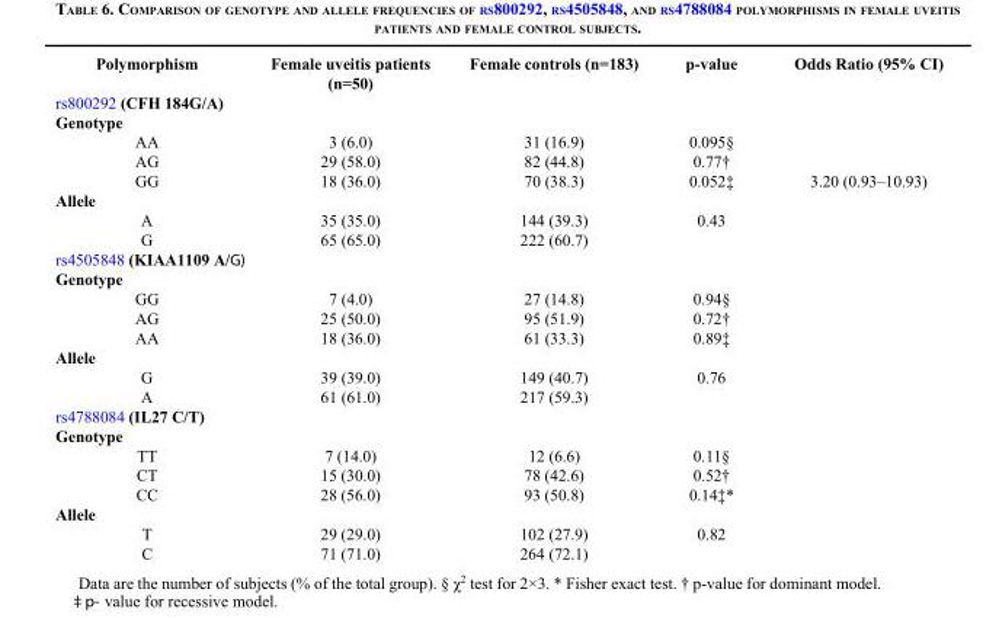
<table><thead><tr><td>Polymorphism</td><td>Female uveitis patients (n=50)</td><td>Female controls (n=183)</td><td>p-value</td><td>Odds Ratio (95% CI)</td></tr></thead><tbody><tr><td colspan="5">rs800292 (CFH 184G/A)</td></tr><tr><td colspan="5">Genotype</td></tr><tr><td>AA</td><td>3 (6.0)</td><td>31 (16.9)</td><td>0.095§</td><td></td></tr><tr><td>AG</td><td>29 (58.0)</td><td>82 (44.8)</td><td>0.77†</td><td></td></tr><tr><td>GG</td><td>18 (36.0)</td><td>70 (38.3)</td><td>0.052‡</td><td>3.20 (0.93–10.93)</td></tr><tr><td colspan="5">Allele</td></tr><tr><td>A</td><td>35 (35.0)</td><td>144 (39.3)</td><td>0.43</td><td></td></tr><tr><td>G</td><td>65 (65.0)</td><td>222 (60.7)</td><td></td><td></td></tr><tr><td colspan="5">rs4505848 (KIAA1109 A/G)</td></tr><tr><td colspan="5">Genotype</td></tr><tr><td>GG</td><td>7 (4.0)</td><td>27 (14.8)</td><td>0.94§</td><td></td></tr><tr><td>AG</td><td>25 (50.0)</td><td>95 (51.9)</td><td>0.72†</td><td></td></tr><tr><td>AA</td><td>18 (36.0)</td><td>61 (33.3)</td><td>0.89‡</td><td></td></tr><tr><td colspan="5">Allele</td></tr><tr><td>G</td><td>39 (39.0)</td><td>149 (40.7)</td><td>0.76</td><td></td></tr><tr><td>A</td><td>61 (61.0)</td><td>217 (59.3)</td><td></td><td></td></tr><tr><td colspan="5">rs4788084 (IL27 C/T)</td></tr><tr><td colspan="5">Genotype</td></tr><tr><td>TT</td><td>7 (14.0)</td><td>12 (6.6)</td><td>0.11§</td><td></td></tr><tr><td>CT</td><td>15 (30.0)</td><td>78 (42.6)</td><td>0.52†</td><td></td></tr><tr><td>CC</td><td>28 (56.0)</td><td>93 (50.8)</td><td>0.14‡*</td><td></td></tr><tr><td colspan="5">Allele</td></tr><tr><td>T</td><td>29 (29.0)</td><td>102 (27.9)</td><td>0.82</td><td></td></tr><tr><td>C</td><td>71 (71.0)</td><td>264 (72.1)</td><td></td><td></td></tr></tbody></table>